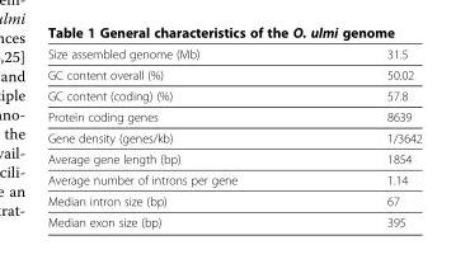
<table><tbody><tr><td>Size assembled genome (Mb)</td><td>31.5</td></tr><tr><td>GC content overall (%)</td><td>50.02</td></tr><tr><td>GC content (coding) (%)</td><td>57.8</td></tr><tr><td>Protein coding genes</td><td>8639</td></tr><tr><td>Gene density (genes/kb)</td><td>1/3642</td></tr><tr><td>Average gene length (bp)</td><td>1854</td></tr><tr><td>Average number of introns per gene</td><td>1.14</td></tr><tr><td>Median intron size (bp)</td><td>67</td></tr><tr><td>Median exon size (bp)</td><td>395</td></tr></tbody></table>